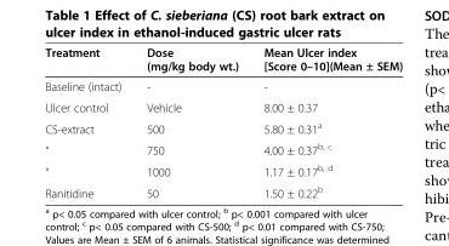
<table><thead><tr><td>Treatment</td><td>Dose (mg/kg body wt.)</td><td>Mean Ulcer index [Score 0–10](Mean ± SEM)</td></tr></thead><tbody><tr><td>Baseline (intact)</td><td>-</td><td>-</td></tr><tr><td>Ulcer control</td><td>Vehicle</td><td>8.00 ± 0.37</td></tr><tr><td>CS-extract</td><td>500</td><td>5.80 ± 0.31<sup>a</sup></td></tr><tr><td>“</td><td>750</td><td>4.00 ± 0.37<sup>b, c</sup></td></tr><tr><td>“</td><td>1000</td><td>1.17 ± 0.17<sup>b, d</sup></td></tr><tr><td>Ranitidine</td><td>50</td><td>1.50 ± 0.22<sup>b</sup></td></tr></tbody></table>